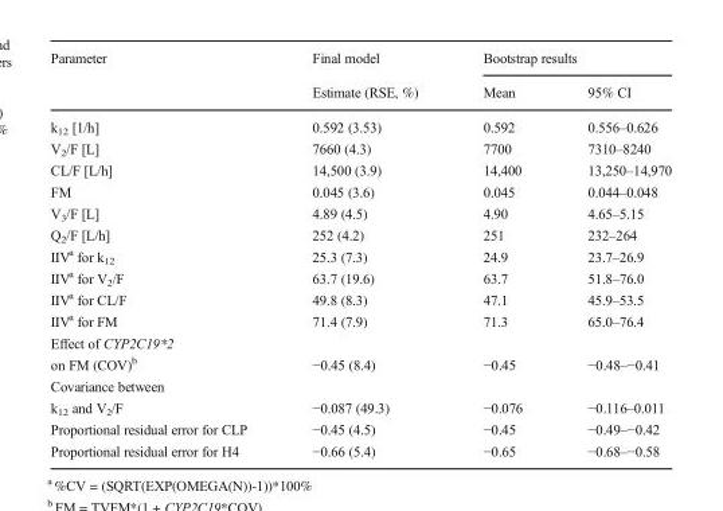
<table><thead><tr><td rowspan="2">Parameter</td><td rowspan="2">Final model Estimate (RSE, %)</td><td colspan="2">Bootstrap results</td></tr><tr><td>Mean</td><td>95% CI</td></tr></thead><tbody><tr><td>k<sub>12</sub> [1/h]</td><td>0.592 (3.53)</td><td>0.592</td><td>0.556–0.626</td></tr><tr><td>V<sub>2</sub>/F [L]</td><td>7660 (4.3)</td><td>7700</td><td>7310–8240</td></tr><tr><td>CL/F [L/h]</td><td>14,500 (3.9)</td><td>14,400</td><td>13,250–14,970</td></tr><tr><td>FM</td><td>0.045 (3.6)</td><td>0.045</td><td>0.044–0.048</td></tr><tr><td>V<sub>3</sub>/F [L]</td><td>4.89 (4.5)</td><td>4.90</td><td>4.65–5.15</td></tr><tr><td>Q<sub>2</sub>/F [L/h]</td><td>252 (4.2)</td><td>251</td><td>232–264</td></tr><tr><td>IIV<sup>a</sup> for k<sub>12</sub></td><td>25.3 (7.3)</td><td>24.9</td><td>23.7–26.9</td></tr><tr><td>IIV<sup>a</sup> for V<sub>2</sub>/F</td><td>63.7 (19.6)</td><td>63.7</td><td>51.8–76.0</td></tr><tr><td>IIV<sup>a</sup> for CL/F</td><td>49.8 (8.3)</td><td>47.1</td><td>45.9–53.5</td></tr><tr><td>IIV<sup>a</sup> for FM</td><td>71.4 (7.9)</td><td>71.3</td><td>65.0–76.4</td></tr><tr><td colspan="4">Effect of CYP2C19*2</td></tr><tr><td>on FM (COV)<sup>b</sup></td><td>−0.45 (8.4)</td><td>−0.45</td><td>−0.48–−0.41</td></tr><tr><td colspan="4">Covariance between</td></tr><tr><td>k<sub>12</sub> and V<sub>2</sub>/F</td><td>−0.087 (49.3)</td><td>−0.076</td><td>−0.116–0.011</td></tr><tr><td>Proportional residual error for CLP</td><td>−0.45 (4.5)</td><td>−0.45</td><td>−0.49–−0.42</td></tr><tr><td>Proportional residual error for H4</td><td>−0.66 (5.4)</td><td>−0.65</td><td>−0.68–−0.58</td></tr></tbody></table>